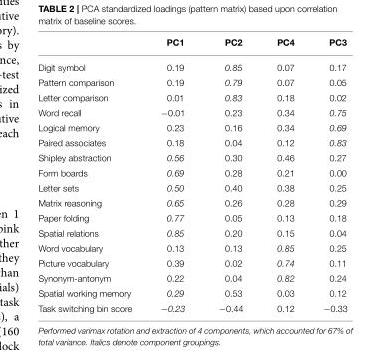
<table><thead><tr><td></td><td>PC1</td><td>PC2</td><td>PC4</td><td>PC3</td></tr></thead><tbody><tr><td>Digit symbol</td><td>0.19</td><td>0.85</td><td>0.07</td><td>0.17</td></tr><tr><td>Pattern comparison</td><td>0.19</td><td>0.79</td><td>0.07</td><td>0.05</td></tr><tr><td>Letter comparison</td><td>0.01</td><td>0.83</td><td>0.18</td><td>0.02</td></tr><tr><td>Word recall</td><td>−0.01</td><td>0.23</td><td>0.34</td><td>0.75</td></tr><tr><td>Logical memory</td><td>0.23</td><td>0.16</td><td>0.34</td><td>0.69</td></tr><tr><td>Paired associates</td><td>0.18</td><td>0.04</td><td>0.12</td><td>0.83</td></tr><tr><td>Shipley abstraction</td><td>0.56</td><td>0.30</td><td>0.46</td><td>0.27</td></tr><tr><td>Form boards</td><td>0.69</td><td>0.28</td><td>0.21</td><td>0.00</td></tr><tr><td>Letter sets</td><td>0.50</td><td>0.40</td><td>0.38</td><td>0.25</td></tr><tr><td>Matrix reasoning</td><td>0.65</td><td>0.26</td><td>0.28</td><td>0.29</td></tr><tr><td>Paper folding</td><td>0.77</td><td>0.05</td><td>0.13</td><td>0.18</td></tr><tr><td>Spatial relations</td><td>0.85</td><td>0.20</td><td>0.15</td><td>0.04</td></tr><tr><td>Word vocabulary</td><td>0.13</td><td>0.13</td><td>0.85</td><td>0.25</td></tr><tr><td>Picture vocabulary</td><td>0.39</td><td>0.02</td><td>0.74</td><td>0.11</td></tr><tr><td>Synonym-antonym</td><td>0.22</td><td>0.04</td><td>0.82</td><td>0.24</td></tr><tr><td>Spatial working memory</td><td>0.29</td><td>0.53</td><td>0.03</td><td>0.12</td></tr><tr><td>Task switching bin score</td><td>−0.23</td><td>−0.44</td><td>0.12</td><td>−0.33</td></tr></tbody></table>